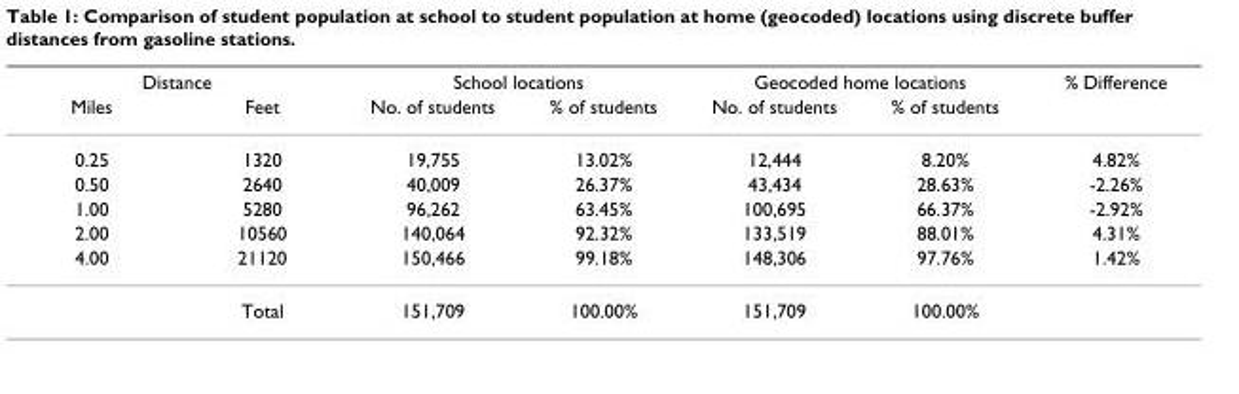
<table><thead><tr><td colspan="2">Distance</td><td colspan="2">School locations</td><td colspan="2">Geocoded home locations</td><td rowspan="2">% Difference</td></tr><tr><td>Miles</td><td>Feet</td><td>No. of students</td><td>% of students</td><td>No. of students</td><td>% of students</td></tr></thead><tbody><tr><td>0.25</td><td>1320</td><td>19,755</td><td>13.02%</td><td>12,444</td><td>8.20%</td><td>4.82%</td></tr><tr><td>0.50</td><td>2640</td><td>40,009</td><td>26.37%</td><td>43,434</td><td>28.63%</td><td>-2.26%</td></tr><tr><td>1.00</td><td>5280</td><td>96,262</td><td>63.45%</td><td>100,695</td><td>66.37%</td><td>-2.92%</td></tr><tr><td>2.00</td><td>10560</td><td>140,064</td><td>92.32%</td><td>133,519</td><td>88.01%</td><td>4.31%</td></tr><tr><td rowspan="2">4.00</td><td>21120</td><td>150,466</td><td>99.18%</td><td>148,306</td><td>97.76%</td><td>1.42%</td></tr><tr><td>Total</td><td>151,709</td><td>100.00%</td><td>151,709</td><td>100.00%</td><td></td></tr></tbody></table>